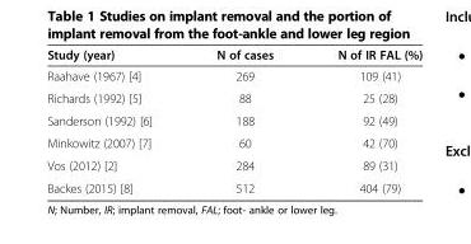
<table><thead><tr><td>Study (year)</td><td>N of cases</td><td>N of IR FAL (%)</td></tr></thead><tbody><tr><td>Raahave (1967) [4]</td><td>269</td><td>109 (41)</td></tr><tr><td>Richards (1992) [5]</td><td>88</td><td>25 (28)</td></tr><tr><td>Sanderson (1992) [6]</td><td>188</td><td>92 (49)</td></tr><tr><td>Minkowitz (2007) [7]</td><td>60</td><td>42 (70)</td></tr><tr><td>Vos (2012) [2]</td><td>284</td><td>89 (31)</td></tr><tr><td>Backes (2015) [8]</td><td>512</td><td>404 (79)</td></tr></tbody></table>